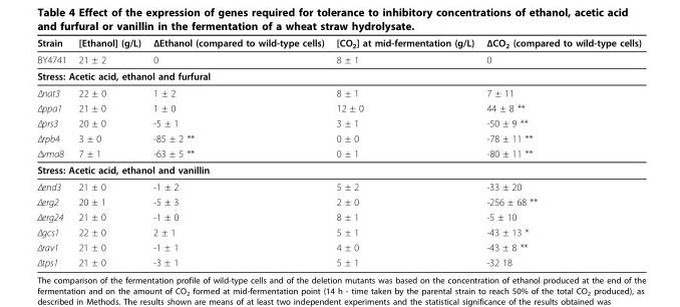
<table><thead><tr><td>Strain</td><td>[Ethanol] (g/L)</td><td>ΔEthanol (compared to wild-type cells)</td><td>[CO<sub>2</sub>] at mid-fermentation (g/L)</td><td>ΔCO<sub>2</sub> (compared to wild-type cells)</td></tr></thead><tbody><tr><td>BY4741</td><td>21 ± 2</td><td>0</td><td>8 ± 1</td><td>0</td></tr><tr><td colspan="5">Stress: Acetic acid, ethanol and furfural</td></tr><tr><td>Δnat3</td><td>22 ± 0</td><td>1 ± 2</td><td>8 ± 1</td><td>7 ± 11</td></tr><tr><td>Δppa1</td><td>21 ± 0</td><td>1 ± 0</td><td>12 ± 0</td><td>44 ± 8 **</td></tr><tr><td>Δprs3</td><td>20 ± 0</td><td>-5 ± 1</td><td>3 ± 1</td><td>-50 ± 9 **</td></tr><tr><td>Δrpb4</td><td>3 ± 0</td><td>-85 ± 2 **</td><td>0 ± 0</td><td>-78 ± 11 **</td></tr><tr><td>Δvma8</td><td>7 ± 1</td><td>-63 ± 5 **</td><td>0 ± 1</td><td>-80 ± 11 **</td></tr><tr><td colspan="5">Stress: Acetic acid, ethanol and vanillin</td></tr><tr><td>Δend3</td><td>21 ± 0</td><td>-1 ± 2</td><td>5 ± 2</td><td>-33 ± 20</td></tr><tr><td>Δerg2</td><td>20 ± 1</td><td>-5 ± 3</td><td>2 ± 0</td><td>-256 ± 68 **</td></tr><tr><td>Δerg24</td><td>21 ± 0</td><td>-1 ± 0</td><td>8 ± 1</td><td>-5 ± 10</td></tr><tr><td>Δgcs1</td><td>22 ± 0</td><td>2 ± 1</td><td>5 ± 1</td><td>-43 ± 13 *</td></tr><tr><td>Δrav1</td><td>21 ± 0</td><td>-1 ± 1</td><td>4 ± 0</td><td>-43 ± 8 **</td></tr><tr><td>Δtps1</td><td>21 ± 0</td><td>-3 ± 1</td><td>5 ± 1</td><td>-32 18</td></tr></tbody></table>